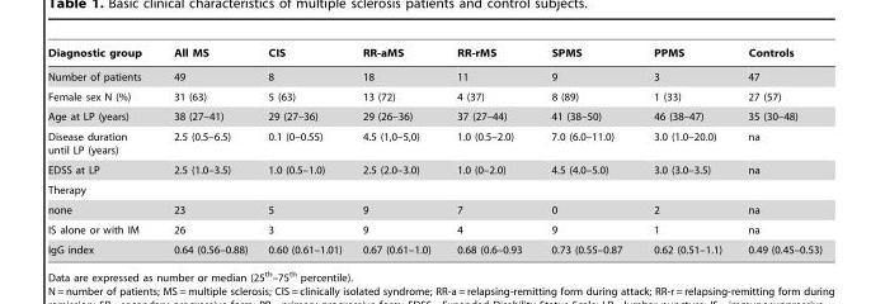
<table><thead><tr><td>Diagnostic group</td><td>All MS</td><td>CIS</td><td>RR-aMS</td><td>RR-rMS</td><td>SPMS</td><td>PPMS</td><td>Controls</td></tr></thead><tbody><tr><td>Number of patients</td><td>49</td><td>8</td><td>18</td><td>11</td><td>9</td><td>3</td><td>47</td></tr><tr><td>Female sex N (%)</td><td>31 (63)</td><td>5 (63)</td><td>13 (72)</td><td>4 (37)</td><td>8 (89)</td><td>1 (33)</td><td>27 (57)</td></tr><tr><td>Age at LP (years)</td><td>38 (27–41)</td><td>29 (27–36)</td><td>29 (26–36)</td><td>37 (27–44)</td><td>41 (38–50)</td><td>46 (38–47)</td><td>35 (30–48)</td></tr><tr><td>Disease duration until LP (years)</td><td>2.5 (0.5–6.5)</td><td>0.1 (0–0.55)</td><td>4.5 (1,0–5,0)</td><td>1.0 (0.5–2.0)</td><td>7.0 (6.0–11.0)</td><td>3.0 (1.0–20.0)</td><td>na</td></tr><tr><td>EDSS at LP</td><td>2.5 (1.0–3.5)</td><td>1.0 (0.5–1.0)</td><td>2.5 (2.0–3.0)</td><td>1.0 (0–2.0)</td><td>4.5 (4.0–5.0)</td><td>3.0 (3.0–3.5)</td><td>na</td></tr><tr><td colspan="8">Therapy</td></tr><tr><td>none</td><td>23</td><td>5</td><td>9</td><td>7</td><td>0</td><td>2</td><td>na</td></tr><tr><td>IS alone or with IM</td><td>26</td><td>3</td><td>9</td><td>4</td><td>9</td><td>1</td><td>na</td></tr><tr><td>IgG index</td><td>0.64 (0.56–0.88)</td><td>0.60 (0.61–1.01)</td><td>0.67 (0.61–1.0)</td><td>0.68 (0.6–0.93</td><td>0.73 (0.55–0.87</td><td>0.62 (0.51–1.1)</td><td>0.49 (0.45–0.53)</td></tr></tbody></table>